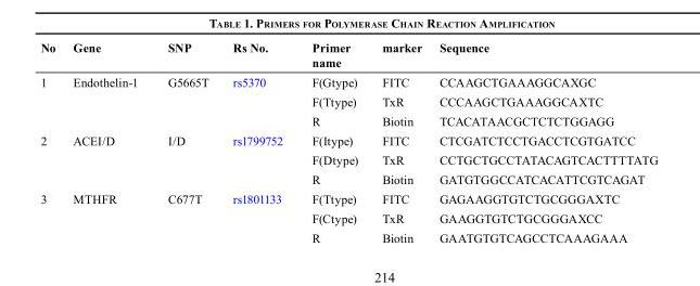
<table><thead><tr><td>No</td><td>Gene</td><td>SNP</td><td>Rs No.</td><td>Primer name</td><td>marker</td><td>Sequence</td></tr></thead><tbody><tr><td rowspan="3">1</td><td>Endothelin-1</td><td>G5665T</td><td>rs5370</td><td>F(Gtype)</td><td>FITC</td><td>CCAAGCTGAAAGGCAXGC</td></tr><tr><td></td><td></td><td></td><td>F(Ttype)</td><td>TxR</td><td>CCCAAGCTGAAAGGCAXTC</td></tr><tr><td></td><td></td><td></td><td>R</td><td>Biotin</td><td>TCACATAACGCTCTCTGGAGG</td></tr><tr><td rowspan="3">2</td><td>ACEI/D</td><td>I/D</td><td>rs1799752</td><td>F(Itype)</td><td>FITC</td><td>CTCGATCTCCTGACCTCGTGATCC</td></tr><tr><td></td><td></td><td></td><td>F(Dtype)</td><td>TxR</td><td>CCTGCTGCCTATACAGTCACTTTTATG</td></tr><tr><td></td><td></td><td></td><td>R</td><td>Biotin</td><td>GATGTGGCCATCACATTCGTCAGAT</td></tr><tr><td rowspan="3">3</td><td>MTHFR</td><td>C677T</td><td>rs1801133</td><td>F(Ttype)</td><td>FITC</td><td>GAGAAGGTGTCTGCGGGAXTC</td></tr><tr><td></td><td></td><td></td><td>F(Ctype)</td><td>TxR</td><td>GAAGGTGTCTGCGGGAXCC</td></tr><tr><td></td><td></td><td></td><td>R</td><td>Biotin</td><td>GAATGTGTCAGCCTCAAAGAAA</td></tr></tbody></table>